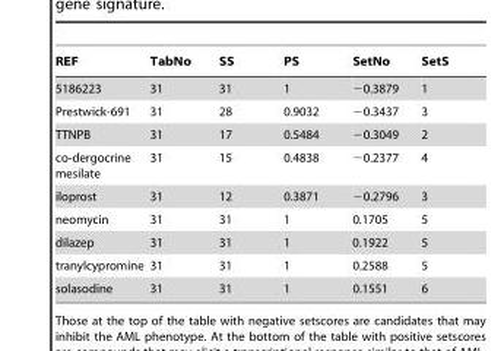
<table><thead><tr><td>REF</td><td>TabNo</td><td>SS</td><td>PS</td><td>SetNo</td><td>SetS</td></tr></thead><tbody><tr><td>5186223</td><td>31</td><td>31</td><td>1</td><td>−0.3879</td><td>1</td></tr><tr><td>Prestwick-691</td><td>31</td><td>28</td><td>0.9032</td><td>−0.3437</td><td>3</td></tr><tr><td>TTNPB</td><td>31</td><td>17</td><td>0.5484</td><td>−0.3049</td><td>2</td></tr><tr><td>co-dergocrine mesilate</td><td>31</td><td>15</td><td>0.4838</td><td>−0.2377</td><td>4</td></tr><tr><td>iloprost</td><td>31</td><td>12</td><td>0.3871</td><td>−0.2796</td><td>3</td></tr><tr><td>neomycin</td><td>31</td><td>31</td><td>1</td><td>0.1705</td><td>5</td></tr><tr><td>dilazep</td><td>31</td><td>31</td><td>1</td><td>0.1922</td><td>5</td></tr><tr><td>tranylcypromine</td><td>31</td><td>31</td><td>1</td><td>0.2588</td><td>5</td></tr><tr><td>solasodine</td><td>31</td><td>31</td><td>1</td><td>0.1551</td><td>6</td></tr></tbody></table>